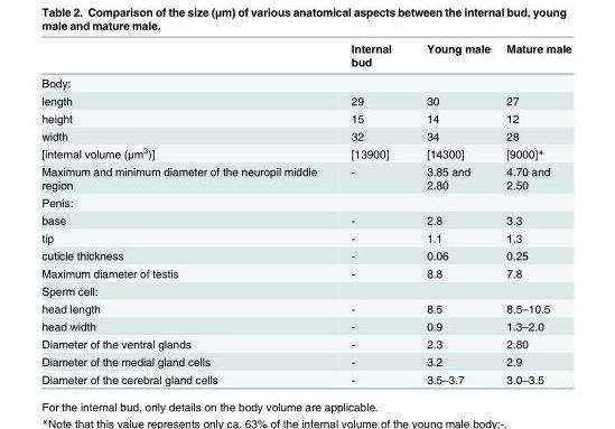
<table><thead><tr><td></td><td>Internal bud</td><td>Young male</td><td>Mature male</td></tr></thead><tbody><tr><td colspan="4">Body:</td></tr><tr><td>length</td><td>29</td><td>30</td><td>27</td></tr><tr><td>height</td><td>15</td><td>14</td><td>12</td></tr><tr><td>width</td><td>32</td><td>34</td><td>28</td></tr><tr><td>[internal volume (μm<sup>3</sup>)]</td><td>[13900]</td><td>[14300]</td><td>[9000]*</td></tr><tr><td>Maximum and minimum diameter of the neuropil middle region</td><td>-</td><td>3.85 and 2.80</td><td>4.70 and 2.50</td></tr><tr><td colspan="4">Penis:</td></tr><tr><td>base</td><td>-</td><td>2.8</td><td>3.3</td></tr><tr><td>tip</td><td>-</td><td>1.1</td><td>1.3</td></tr><tr><td>cuticle thickness</td><td>-</td><td>0.06</td><td>0.25</td></tr><tr><td>Maximum diameter of testis</td><td>-</td><td>8.8</td><td>7.8</td></tr><tr><td colspan="4">Sperm cell:</td></tr><tr><td>head length</td><td>-</td><td>8.5</td><td>8.5–10.5</td></tr><tr><td>head width</td><td>-</td><td>0.9</td><td>1.3–2.0</td></tr><tr><td>Diameter of the ventral glands</td><td>-</td><td>2.3</td><td>2.80</td></tr><tr><td>Diameter of the medial gland cells</td><td>-</td><td>3.2</td><td>2.9</td></tr><tr><td>Diameter of the cerebral gland cells</td><td>-</td><td>3.5–3.7</td><td>3.0–3.5</td></tr></tbody></table>